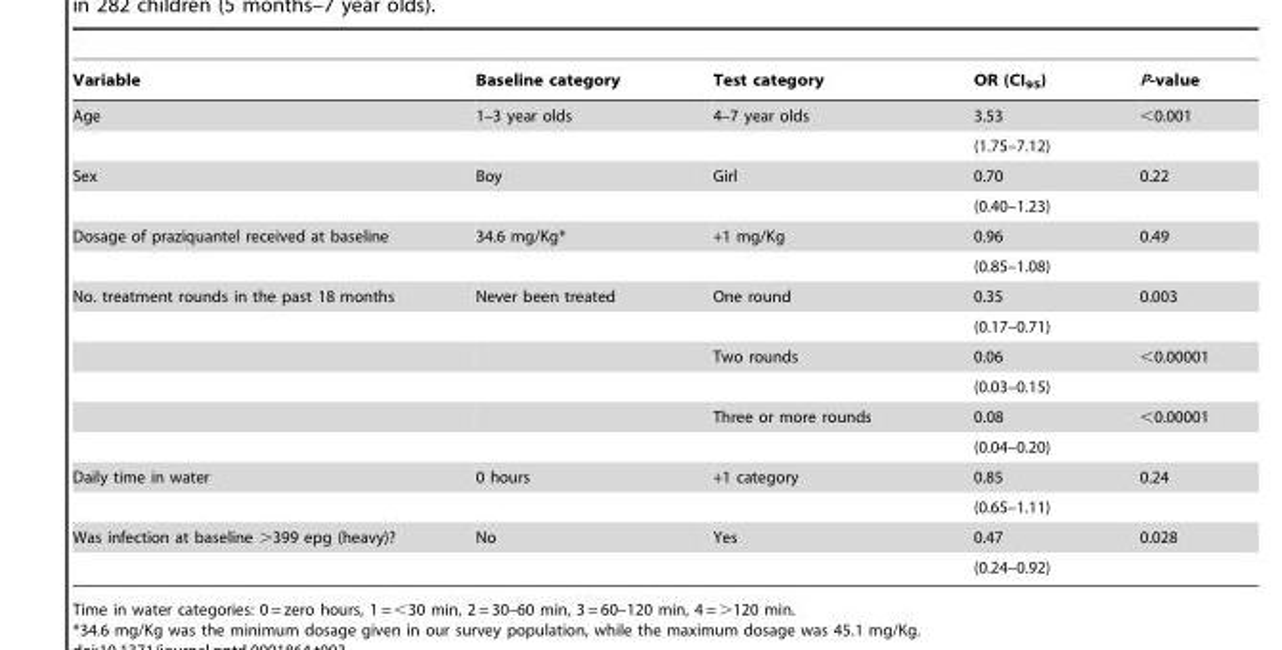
<table><thead><tr><td>Variable</td><td>Baseline category</td><td>Test category</td><td>OR (CI<sub>95</sub>)</td><td>P-value</td></tr></thead><tbody><tr><td rowspan="2">Age</td><td>1–3 year olds</td><td>4–7 year olds</td><td>3.53</td><td>&lt;0.001</td></tr><tr><td></td><td></td><td>(1.75–7.12)</td><td></td></tr><tr><td rowspan="2">Sex</td><td>Boy</td><td>Girl</td><td>0.70</td><td>0.22</td></tr><tr><td></td><td></td><td>(0.40–1.23)</td><td></td></tr><tr><td rowspan="2">Dosage of praziquantel received at baseline</td><td>34.6 mg/Kg*</td><td>+1 mg/Kg</td><td>0.96</td><td>0.49</td></tr><tr><td></td><td></td><td>(0.85–1.08)</td><td></td></tr><tr><td rowspan="6">No. treatment rounds in the past 18 months</td><td>Never been treated</td><td>One round</td><td>0.35</td><td>0.003</td></tr><tr><td></td><td></td><td>(0.17–0.71)</td><td></td></tr><tr><td></td><td>Two rounds</td><td>0.06</td><td>&lt;0.00001</td></tr><tr><td></td><td></td><td>(0.03–0.15)</td><td></td></tr><tr><td></td><td>Three or more rounds</td><td>0.08</td><td>&lt;0.00001</td></tr><tr><td></td><td></td><td>(0.04–0.20)</td><td></td></tr><tr><td rowspan="2">Daily time in water</td><td>0 hours</td><td>+1 category</td><td>0.85</td><td>0.24</td></tr><tr><td></td><td></td><td>(0.65–1.11)</td><td></td></tr><tr><td rowspan="2">Was infection at baseline &gt;399 epg (heavy)?</td><td>No</td><td>Yes</td><td>0.47</td><td>0.028</td></tr><tr><td></td><td></td><td>(0.24–0.92)</td><td></td></tr></tbody></table>